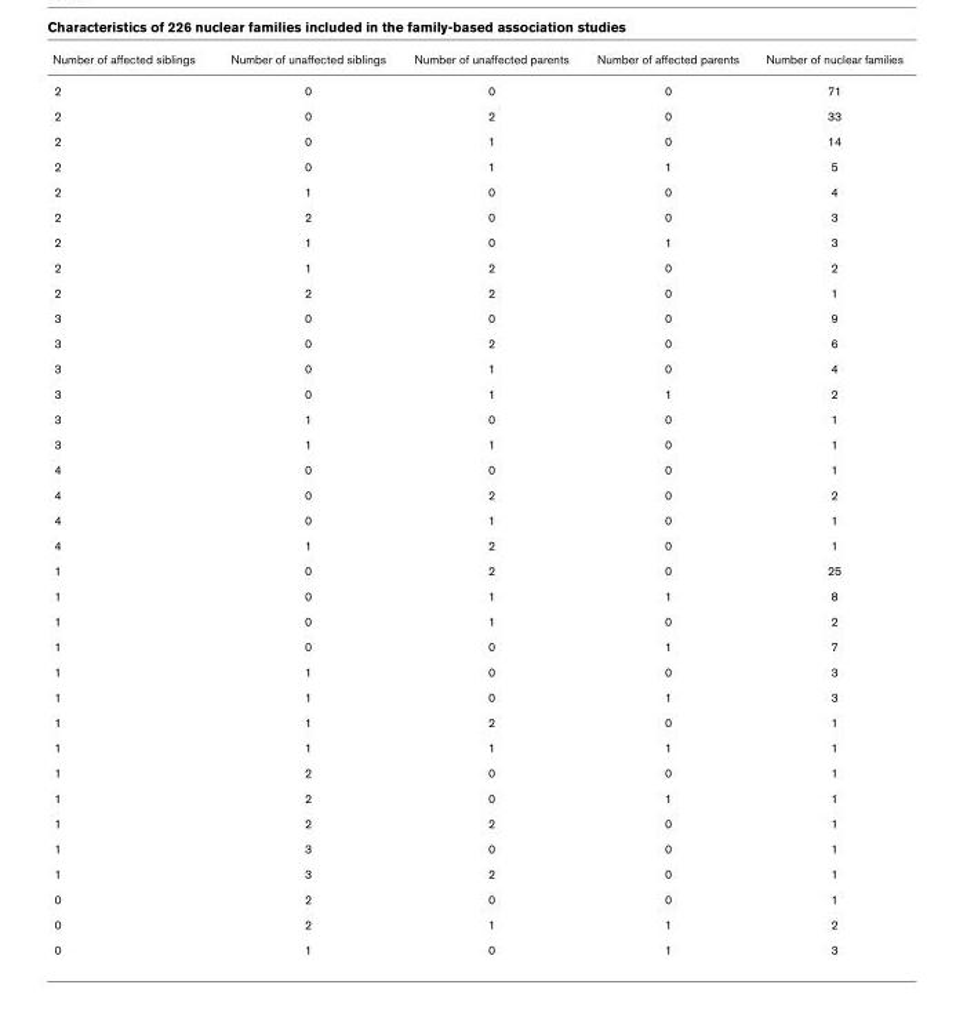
<table><thead><tr><td>Number of affected siblings</td><td>Number of unaffected siblings</td><td>Number of unaffected parents</td><td>Number of affected parents</td><td>Number of nuclear families</td></tr></thead><tbody><tr><td>2</td><td>0</td><td>0</td><td>0</td><td>71</td></tr><tr><td>2</td><td>0</td><td>2</td><td>0</td><td>33</td></tr><tr><td>2</td><td>0</td><td>1</td><td>0</td><td>14</td></tr><tr><td>2</td><td>0</td><td>1</td><td>1</td><td>5</td></tr><tr><td>2</td><td>1</td><td>0</td><td>0</td><td>4</td></tr><tr><td>2</td><td>2</td><td>0</td><td>0</td><td>3</td></tr><tr><td>2</td><td>1</td><td>0</td><td>1</td><td>3</td></tr><tr><td>2</td><td>1</td><td>2</td><td>0</td><td>2</td></tr><tr><td>2</td><td>2</td><td>2</td><td>0</td><td>1</td></tr><tr><td>3</td><td>0</td><td>0</td><td>0</td><td>9</td></tr><tr><td>3</td><td>0</td><td>2</td><td>0</td><td>6</td></tr><tr><td>3</td><td>0</td><td>1</td><td>0</td><td>4</td></tr><tr><td>3</td><td>0</td><td>1</td><td>1</td><td>2</td></tr><tr><td>3</td><td>1</td><td>0</td><td>0</td><td>1</td></tr><tr><td>3</td><td>1</td><td>1</td><td>0</td><td>1</td></tr><tr><td>4</td><td>0</td><td>0</td><td>0</td><td>1</td></tr><tr><td>4</td><td>0</td><td>2</td><td>0</td><td>2</td></tr><tr><td>4</td><td>0</td><td>1</td><td>0</td><td>1</td></tr><tr><td>4</td><td>1</td><td>2</td><td>0</td><td>1</td></tr><tr><td>1</td><td>0</td><td>2</td><td>0</td><td>25</td></tr><tr><td>1</td><td>0</td><td>1</td><td>1</td><td>8</td></tr><tr><td>1</td><td>0</td><td>1</td><td>0</td><td>2</td></tr><tr><td>1</td><td>0</td><td>0</td><td>1</td><td>7</td></tr><tr><td>1</td><td>1</td><td>0</td><td>0</td><td>3</td></tr><tr><td>1</td><td>1</td><td>0</td><td>1</td><td>3</td></tr><tr><td>1</td><td>1</td><td>2</td><td>0</td><td>1</td></tr><tr><td>1</td><td>1</td><td>1</td><td>1</td><td>1</td></tr><tr><td>1</td><td>2</td><td>0</td><td>0</td><td>1</td></tr><tr><td>1</td><td>2</td><td>0</td><td>1</td><td>1</td></tr><tr><td>1</td><td>2</td><td>2</td><td>0</td><td>1</td></tr><tr><td>1</td><td>3</td><td>0</td><td>0</td><td>1</td></tr><tr><td>1</td><td>3</td><td>2</td><td>0</td><td>1</td></tr><tr><td>0</td><td>2</td><td>0</td><td>0</td><td>1</td></tr><tr><td>0</td><td>2</td><td>1</td><td>1</td><td>2</td></tr><tr><td>0</td><td>1</td><td>0</td><td>1</td><td>3</td></tr></tbody></table>